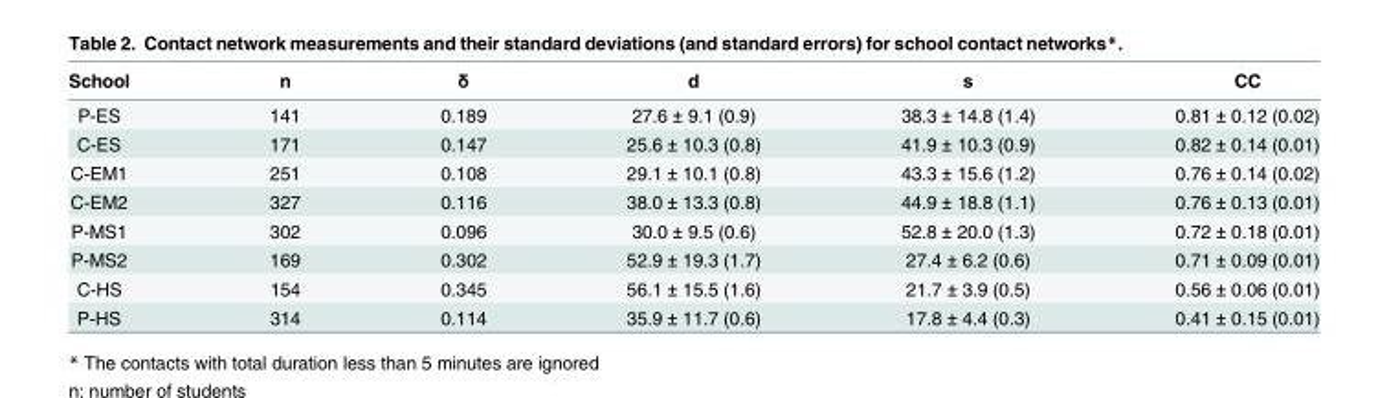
<table><thead><tr><td>School</td><td>n</td><td>δ</td><td>d</td><td>s</td><td>CC</td></tr></thead><tbody><tr><td>P-ES</td><td>141</td><td>0.189</td><td>27.6 ± 9.1 (0.9)</td><td>38.3 ± 14.8 (1.4)</td><td>0.81 ± 0.12 (0.02)</td></tr><tr><td>C-ES</td><td>171</td><td>0.147</td><td>25.6 ± 10.3 (0.8)</td><td>41.9 ± 10.3 (0.9)</td><td>0.82 ± 0.14 (0.01)</td></tr><tr><td>C-EM1</td><td>251</td><td>0.108</td><td>29.1 ± 10.1 (0.8)</td><td>43.3 ± 15.6 (1.2)</td><td>0.76 ± 0.14 (0.02)</td></tr><tr><td>C-EM2</td><td>327</td><td>0.116</td><td>38.0 ± 13.3 (0.8)</td><td>44.9 ± 18.8 (1.1)</td><td>0.76 ± 0.13 (0.01)</td></tr><tr><td>P-MS1</td><td>302</td><td>0.096</td><td>30.0 ± 9.5 (0.6)</td><td>52.8 ± 20.0 (1.3)</td><td>0.72 ± 0.18 (0.01)</td></tr><tr><td>P-MS2</td><td>169</td><td>0.302</td><td>52.9 ± 19.3 (1.7)</td><td>27.4 ± 6.2 (0.6)</td><td>0.71 ± 0.09 (0.01)</td></tr><tr><td>C-HS</td><td>154</td><td>0.345</td><td>56.1 ± 15.5 (1.6)</td><td>21.7 ± 3.9 (0.5)</td><td>0.56 ± 0.06 (0.01)</td></tr><tr><td>P-HS</td><td>314</td><td>0.114</td><td>35.9 ± 11.7 (0.6)</td><td>17.8 ± 4.4 (0.3)</td><td>0.41 ± 0.15 (0.01)</td></tr></tbody></table>